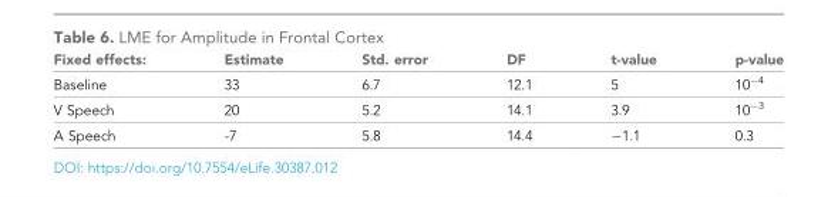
<table><thead><tr><td>Fixed effects:</td><td>Estimate</td><td>Std. error</td><td>DF</td><td>t-value</td><td>p-value</td></tr></thead><tbody><tr><td>Baseline</td><td>33</td><td>6.7</td><td>12.1</td><td>5</td><td>10<sup>−4</sup></td></tr><tr><td>V Speech</td><td>20</td><td>5.2</td><td>14.1</td><td>3.9</td><td>10<sup>−3</sup></td></tr><tr><td>A Speech</td><td>-7</td><td>5.8</td><td>14.4</td><td>−1.1</td><td>0.3</td></tr></tbody></table>